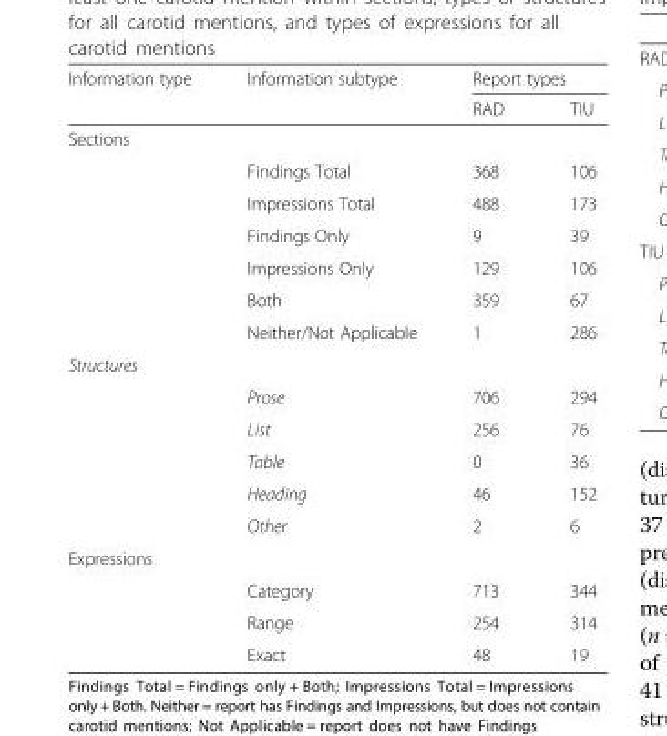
<table><thead><tr><td rowspan="2">Information type</td><td rowspan="2">Information subtype</td><td colspan="2">Report types</td></tr><tr><td>RAD</td><td>TIU</td></tr></thead><tbody><tr><td colspan="4">Sections</td></tr><tr><td></td><td>Findings Total</td><td>368</td><td>106</td></tr><tr><td></td><td>Impressions Total</td><td>488</td><td>173</td></tr><tr><td></td><td>Findings Only</td><td>9</td><td>39</td></tr><tr><td></td><td>Impressions Only</td><td>129</td><td>106</td></tr><tr><td></td><td>Both</td><td>359</td><td>67</td></tr><tr><td></td><td>Neither/Not Applicable</td><td>1</td><td>286</td></tr><tr><td colspan="4">Structures</td></tr><tr><td></td><td>Prose</td><td>706</td><td>294</td></tr><tr><td></td><td>List</td><td>256</td><td>76</td></tr><tr><td></td><td>Table</td><td>0</td><td>36</td></tr><tr><td></td><td>Heading</td><td>46</td><td>152</td></tr><tr><td></td><td>Other</td><td>2</td><td>6</td></tr><tr><td colspan="4">Expressions</td></tr><tr><td></td><td>Category</td><td>713</td><td>344</td></tr><tr><td></td><td>Range</td><td>254</td><td>314</td></tr><tr><td></td><td>Exact</td><td>48</td><td>19</td></tr></tbody></table>